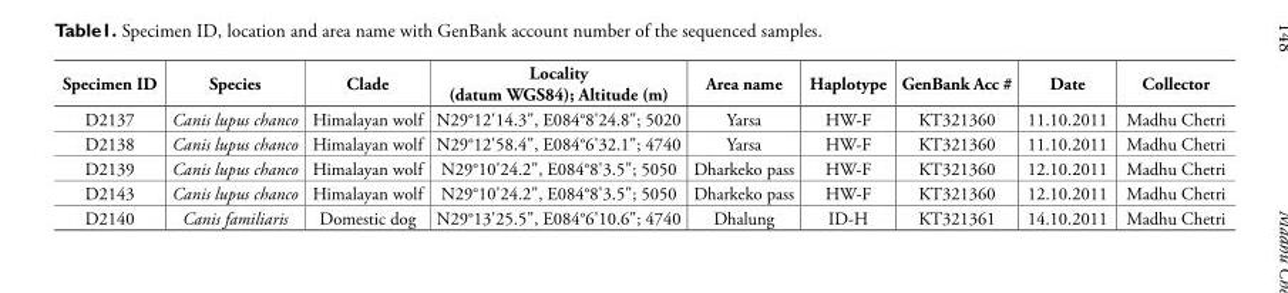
<table><thead><tr><td>Specimen ID</td><td>Species</td><td>Clade</td><td>Locality (datum WGS84); Altitude (m)</td><td>Area name</td><td>Haplotype</td><td>GenBank Acc #</td><td>Date</td><td>Collector</td></tr></thead><tbody><tr><td>D2137</td><td>Canis lupus chanco</td><td>Himalayan wolf</td><td>N29°12&#x27;14.3&quot;, E084°8&#x27;24.8&quot;; 5020</td><td>Yarsa</td><td>HW-F</td><td>KT321360</td><td>11.10.2011</td><td>Madhu Chetri</td></tr><tr><td>D2138</td><td>Canis lupus chanco</td><td>Himalayan wolf</td><td>N29°12&#x27;58.4&quot;, E084°6&#x27;32.1&quot;; 4740</td><td>Yarsa</td><td>HW-F</td><td>KT321360</td><td>11.10.2011</td><td>Madhu Chetri</td></tr><tr><td>D2139</td><td>Canis lupus chanco</td><td>Himalayan wolf</td><td>N29°10&#x27;24.2&quot;, E084°8&#x27;3.5&quot;; 5050</td><td>Dharkeko pass</td><td>HW-F</td><td>KT321360</td><td>12.10.2011</td><td>Madhu Chetri</td></tr><tr><td>D2143</td><td>Canis lupus chanco</td><td>Himalayan wolf</td><td>N29°10&#x27;24.2&quot;, E084°8&#x27;3.5&quot;; 5050</td><td>Dharkeko pass</td><td>HW-F</td><td>KT321360</td><td>12.10.2011</td><td>Madhu Chetri</td></tr><tr><td>D2140</td><td>Canis familiaris</td><td>Domestic dog</td><td>N29°13&#x27;25.5&quot;, E084°6&#x27;10.6&quot;; 4740</td><td>Dhalung</td><td>ID-H</td><td>KT321361</td><td>14.10.2011</td><td>Madhu Chetri</td></tr></tbody></table>